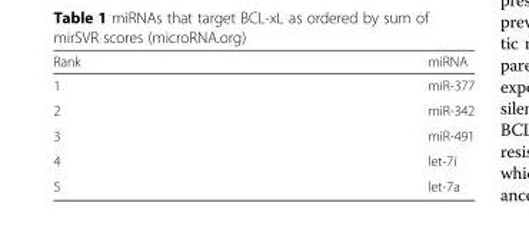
<table><thead><tr><td>Rank</td><td>miRNA</td></tr></thead><tbody><tr><td>1</td><td>miR-377</td></tr><tr><td>2</td><td>miR-342</td></tr><tr><td>3</td><td>miR-491</td></tr><tr><td>4</td><td>let-7i</td></tr><tr><td>5</td><td>let-7a</td></tr></tbody></table>